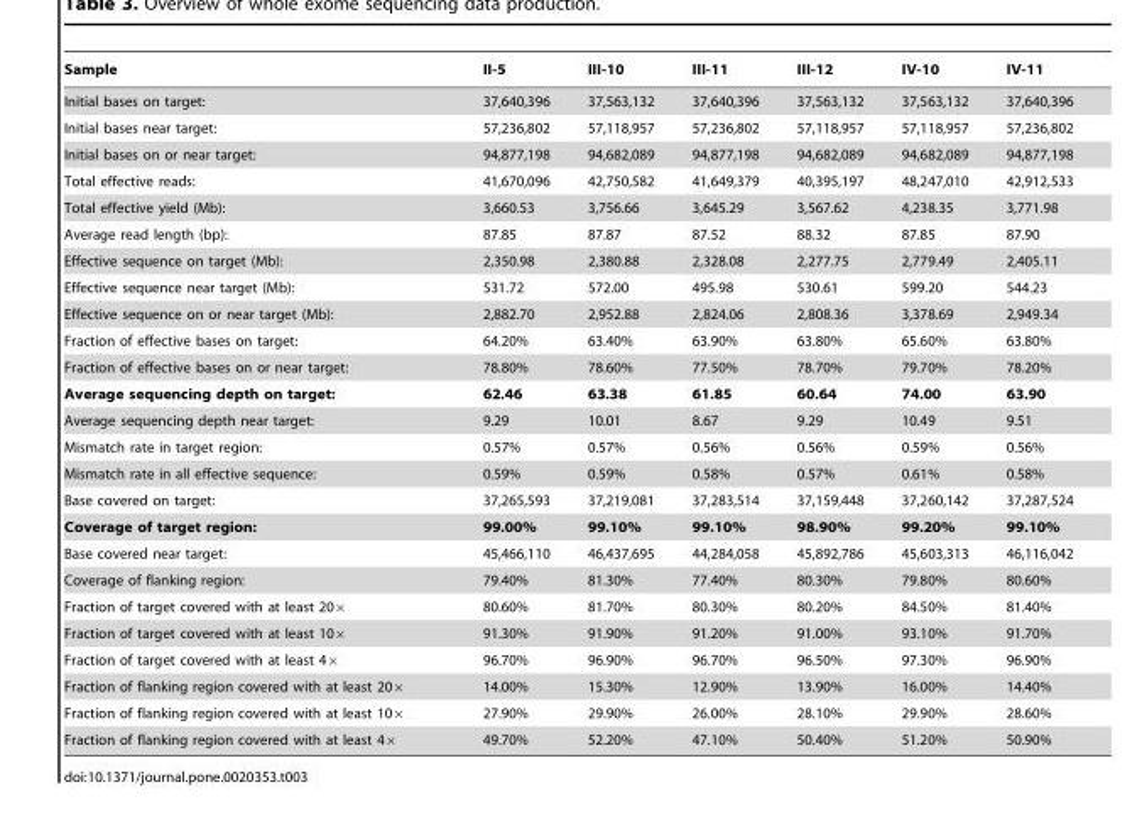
<table><thead><tr><td>Sample</td><td>II-5</td><td>III-10</td><td>III-11</td><td>III-12</td><td>IV-10</td><td>IV-11</td></tr></thead><tbody><tr><td>Initial bases on target:</td><td>37,640,396</td><td>37,563,132</td><td>37,640,396</td><td>37,563,132</td><td>37,563,132</td><td>37,640,396</td></tr><tr><td>Initial bases near target:</td><td>57,236,802</td><td>57,118,957</td><td>57,236,802</td><td>57,118,957</td><td>57,118,957</td><td>57,236,802</td></tr><tr><td>Initial bases on or near target:</td><td>94,877,198</td><td>94,682,089</td><td>94,877,198</td><td>94,682,089</td><td>94,682,089</td><td>94,877,198</td></tr><tr><td>Total effective reads:</td><td>41,670,096</td><td>42,750,582</td><td>41,649,379</td><td>40,395,197</td><td>48,247,010</td><td>42,912,533</td></tr><tr><td>Total effective yield (Mb):</td><td>3,660.53</td><td>3,756.66</td><td>3,645.29</td><td>3,567.62</td><td>4,238.35</td><td>3,771.98</td></tr><tr><td>Average read length (bp):</td><td>87.85</td><td>87.87</td><td>87.52</td><td>88.32</td><td>87.85</td><td>87.90</td></tr><tr><td>Effective sequence on target (Mb):</td><td>2,350.98</td><td>2,380.88</td><td>2,328.08</td><td>2,277.75</td><td>2,779.49</td><td>2,405.11</td></tr><tr><td>Effective sequence near target (Mb):</td><td>531.72</td><td>572.00</td><td>495.98</td><td>530.61</td><td>599.20</td><td>544.23</td></tr><tr><td>Effective sequence on or near target (Mb):</td><td>2,882.70</td><td>2,952.88</td><td>2,824.06</td><td>2,808.36</td><td>3,378.69</td><td>2,949.34</td></tr><tr><td>Fraction of effective bases on target:</td><td>64.20%</td><td>63.40%</td><td>63.90%</td><td>63.80%</td><td>65.60%</td><td>63.80%</td></tr><tr><td>Fraction of effective bases on or near target:</td><td>78.80%</td><td>78.60%</td><td>77.50%</td><td>78.70%</td><td>79.70%</td><td>78.20%</td></tr><tr><td>Average sequencing depth on target:</td><td>62.46</td><td>63.38</td><td>61.85</td><td>60.64</td><td>74.00</td><td>63.90</td></tr><tr><td>Average sequencing depth near target:</td><td>9.29</td><td>10.01</td><td>8.67</td><td>9.29</td><td>10.49</td><td>9.51</td></tr><tr><td>Mismatch rate in target region:</td><td>0.57%</td><td>0.57%</td><td>0.56%</td><td>0.56%</td><td>0.59%</td><td>0.56%</td></tr><tr><td>Mismatch rate in all effective sequence:</td><td>0.59%</td><td>0.59%</td><td>0.58%</td><td>0.57%</td><td>0.61%</td><td>0.58%</td></tr><tr><td>Base covered on target:</td><td>37,265,593</td><td>37,219,081</td><td>37,283,514</td><td>37,159,448</td><td>37,260,142</td><td>37,287,524</td></tr><tr><td>Coverage of target region:</td><td>99.00%</td><td>99.10%</td><td>99.10%</td><td>98.90%</td><td>99.20%</td><td>99.10%</td></tr><tr><td>Base covered near target:</td><td>45,466,110</td><td>46,437,695</td><td>44,284,058</td><td>45,892,786</td><td>45,603,313</td><td>46,116,042</td></tr><tr><td>Coverage of flanking region:</td><td>79.40%</td><td>81.30%</td><td>77.40%</td><td>80.30%</td><td>79.80%</td><td>80.60%</td></tr><tr><td>Fraction of target covered with at least 20×</td><td>80.60%</td><td>81.70%</td><td>80.30%</td><td>80.20%</td><td>84.50%</td><td>81.40%</td></tr><tr><td>Fraction of target covered with at least 10×</td><td>91.30%</td><td>91.90%</td><td>91.20%</td><td>91.00%</td><td>93.10%</td><td>91.70%</td></tr><tr><td>Fraction of target covered with at least 4×</td><td>96.70%</td><td>96.90%</td><td>96.70%</td><td>96.50%</td><td>97.30%</td><td>96.90%</td></tr><tr><td>Fraction of flanking region covered with at least 20×</td><td>14.00%</td><td>15.30%</td><td>12.90%</td><td>13.90%</td><td>16.00%</td><td>14.40%</td></tr><tr><td>Fraction of flanking region covered with at least 10×</td><td>27.90%</td><td>29.90%</td><td>26.00%</td><td>28.10%</td><td>29.90%</td><td>28.60%</td></tr><tr><td>Fraction of flanking region covered with at least 4×</td><td>49.70%</td><td>52.20%</td><td>47.10%</td><td>50.40%</td><td>51.20%</td><td>50.90%</td></tr></tbody></table>